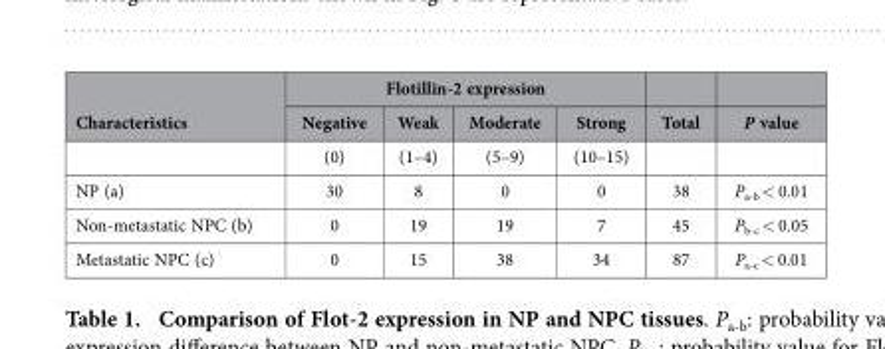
<table><thead><tr><td rowspan="2">Characteristics</td><td colspan="4">Flotillin-2 expression</td><td rowspan="2">Total</td><td rowspan="2">P value</td></tr><tr><td>Negative</td><td>Weak</td><td>Moderate</td><td>Strong</td></tr></thead><tbody><tr><td></td><td>(0)</td><td>(1–4)</td><td>(5–9)</td><td>(10–15)</td><td></td><td></td></tr><tr><td>NP (a)</td><td>30</td><td>8</td><td>0</td><td>0</td><td>38</td><td>P<sub>a-b</sub> &lt; 0.01</td></tr><tr><td>Non-metastatic NPC (b)</td><td>0</td><td>19</td><td>19</td><td>7</td><td>45</td><td>P<sub>b-c</sub> &lt; 0.05</td></tr><tr><td>Metastatic NPC (c)</td><td>0</td><td>15</td><td>38</td><td>34</td><td>87</td><td>P<sub>a-c</sub> &lt; 0.01</td></tr></tbody></table>